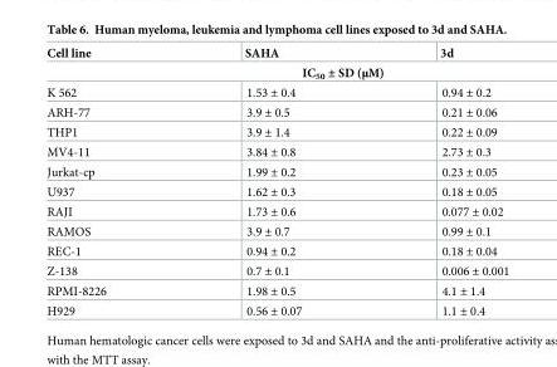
<table><thead><tr><td>Cell line</td><td>SAHA</td><td>3d</td></tr><tr><td colspan="3">IC<sub>50</sub> ± SD (μM)</td></tr></thead><tbody><tr><td>K 562</td><td>1.53 ± 0.4</td><td>0.94 ± 0.2</td></tr><tr><td>ARH-77</td><td>3.9 ± 0.5</td><td>0.21 ± 0.06</td></tr><tr><td>THP1</td><td>3.9 ± 1.4</td><td>0.22 ± 0.09</td></tr><tr><td>MV4-11</td><td>3.84 ± 0.8</td><td>2.73 ± 0.3</td></tr><tr><td>Jurkat-cp</td><td>1.99 ± 0.2</td><td>0.23 ± 0.05</td></tr><tr><td>U937</td><td>1.62 ± 0.3</td><td>0.18 ± 0.05</td></tr><tr><td>RAJI</td><td>1.73 ± 0.6</td><td>0.077 ± 0.02</td></tr><tr><td>RAMOS</td><td>3.9 ± 0.7</td><td>0.99 ± 0.1</td></tr><tr><td>REC-1</td><td>0.94 ± 0.2</td><td>0.18 ± 0.04</td></tr><tr><td>Z-138</td><td>0.7 ± 0.1</td><td>0.006 ± 0.001</td></tr><tr><td>RPMI-8226</td><td>1.98 ± 0.5</td><td>4.1 ± 1.4</td></tr><tr><td>H929</td><td>0.56 ± 0.07</td><td>1.1 ± 0.4</td></tr></tbody></table>